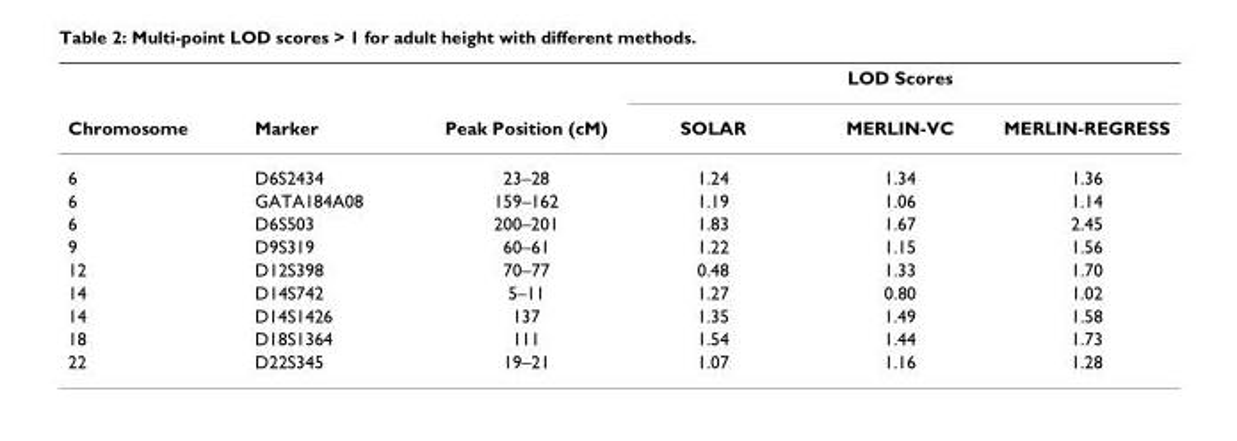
<table><thead><tr><td rowspan="2">Chromosome</td><td rowspan="2">Marker</td><td rowspan="2">Peak Position (cM)</td><td colspan="3">LOD Scores</td></tr><tr><td>SOLAR</td><td>MERLIN-VC</td><td>MERLIN-REGRESS</td></tr></thead><tbody><tr><td>6</td><td>D6S2434</td><td>23–28</td><td>1.24</td><td>1.34</td><td>1.36</td></tr><tr><td>6</td><td>GATA184A08</td><td>159–162</td><td>1.19</td><td>1.06</td><td>1.14</td></tr><tr><td>6</td><td>D6S503</td><td>200–201</td><td>1.83</td><td>1.67</td><td>2.45</td></tr><tr><td>9</td><td>D9S319</td><td>60–61</td><td>1.22</td><td>1.15</td><td>1.56</td></tr><tr><td>12</td><td>D12S398</td><td>70–77</td><td>0.48</td><td>1.33</td><td>1.70</td></tr><tr><td>14</td><td>D14S742</td><td>5–11</td><td>1.27</td><td>0.80</td><td>1.02</td></tr><tr><td>14</td><td>D14S1426</td><td>137</td><td>1.35</td><td>1.49</td><td>1.58</td></tr><tr><td>18</td><td>D18S1364</td><td>111</td><td>1.54</td><td>1.44</td><td>1.73</td></tr><tr><td>22</td><td>D22S345</td><td>19–21</td><td>1.07</td><td>1.16</td><td>1.28</td></tr></tbody></table>